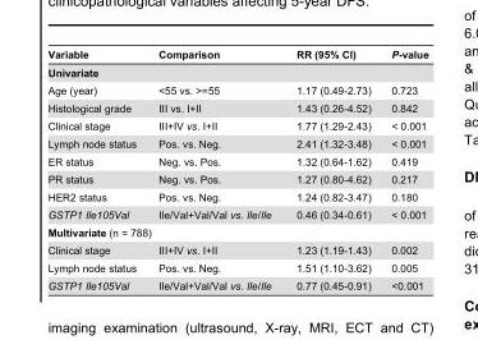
<table><thead><tr><td>Variable</td><td>Comparison</td><td>RR (95% CI)</td><td>P-value</td></tr></thead><tbody><tr><td colspan="4">Univariate</td></tr><tr><td>Age (year)</td><td>&lt;55 vs. &gt;=55</td><td>1.17 (0.49-2.73)</td><td>0.723</td></tr><tr><td>Histological grade</td><td>III vs. I+II</td><td>1.43 (0.26-4.52)</td><td>0.842</td></tr><tr><td>Clinical stage</td><td>III+IV vs. I+II</td><td>1.77 (1.29-2.43)</td><td>&lt; 0.001</td></tr><tr><td>Lymph node status</td><td>Pos. vs. Neg.</td><td>2.41 (1.32-3.48)</td><td>&lt; 0.001</td></tr><tr><td>ER status</td><td>Neg. vs. Pos.</td><td>1.32 (0.64-1.62)</td><td>0.419</td></tr><tr><td>PR status</td><td>Neg. vs. Pos.</td><td>1.27 (0.80-4.62)</td><td>0.217</td></tr><tr><td>HER2 status</td><td>Pos. vs. Neg.</td><td>1.24 (0.82-3.47)</td><td>0.180</td></tr><tr><td>GSTP1 Ile105Val</td><td>Ile/Val+Val/Val vs. Ile/Ile</td><td>0.46 (0.34-0.61)</td><td>&lt; 0.001</td></tr><tr><td colspan="4">Multivariate (n = 788)</td></tr><tr><td>Clinical stage</td><td>III+IV vs. I+II</td><td>1.23 (1.19-1.43)</td><td>0.002</td></tr><tr><td>Lymph node status</td><td>Pos. vs. Neg.</td><td>1.51 (1.10-3.62)</td><td>0.005</td></tr><tr><td>GSTP1 Ile105Val</td><td>Ile/Val+Val/Val vs. Ile/Ile</td><td>0.77 (0.45-0.91)</td><td>&lt;0.001</td></tr></tbody></table>